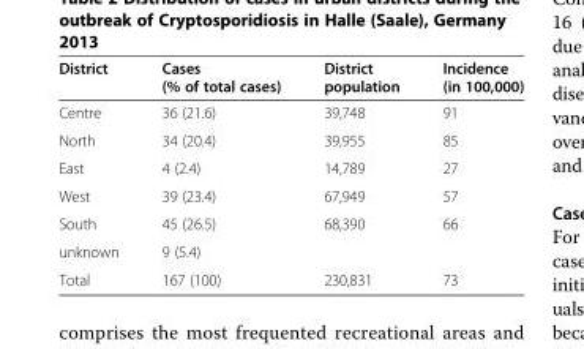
<table><thead><tr><td>District</td><td>Cases (% of total cases)</td><td>District population</td><td>Incidence (in 100,000)</td></tr></thead><tbody><tr><td>Centre</td><td>36 (21.6)</td><td>39,748</td><td>91</td></tr><tr><td>North</td><td>34 (20.4)</td><td>39,955</td><td>85</td></tr><tr><td>East</td><td>4 (2.4)</td><td>14,789</td><td>27</td></tr><tr><td>West</td><td>39 (23.4)</td><td>67,949</td><td>57</td></tr><tr><td>South</td><td>45 (26.5)</td><td>68,390</td><td>66</td></tr><tr><td>unknown</td><td>9 (5.4)</td><td></td><td></td></tr><tr><td>Total</td><td>167 (100)</td><td>230,831</td><td>73</td></tr></tbody></table>